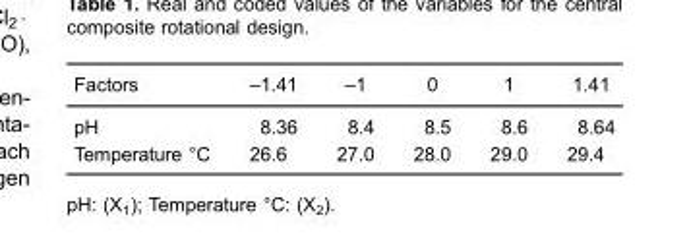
<table><thead><tr><td>Factors</td><td>–1.41</td><td>–1</td><td>0</td><td>1</td><td>1.41</td></tr></thead><tbody><tr><td>pH</td><td>8.36</td><td>8.4</td><td>8.5</td><td>8.6</td><td>8.64</td></tr><tr><td>Temperature °C</td><td>26.6</td><td>27.0</td><td>28.0</td><td>29.0</td><td>29.4</td></tr></tbody></table>